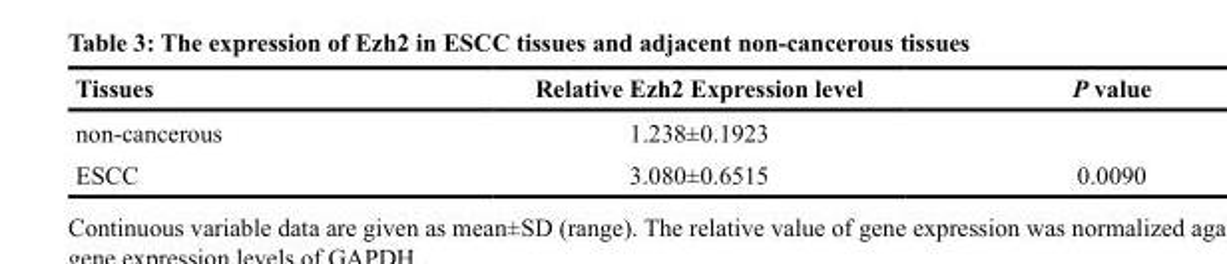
<table><thead><tr><td>Tissues</td><td>Relative Ezh2 Expression level</td><td>P value</td></tr></thead><tbody><tr><td>non-cancerous</td><td>1.238±0.1923</td><td></td></tr><tr><td>ESCC</td><td>3.080±0.6515</td><td>0.0090</td></tr></tbody></table>